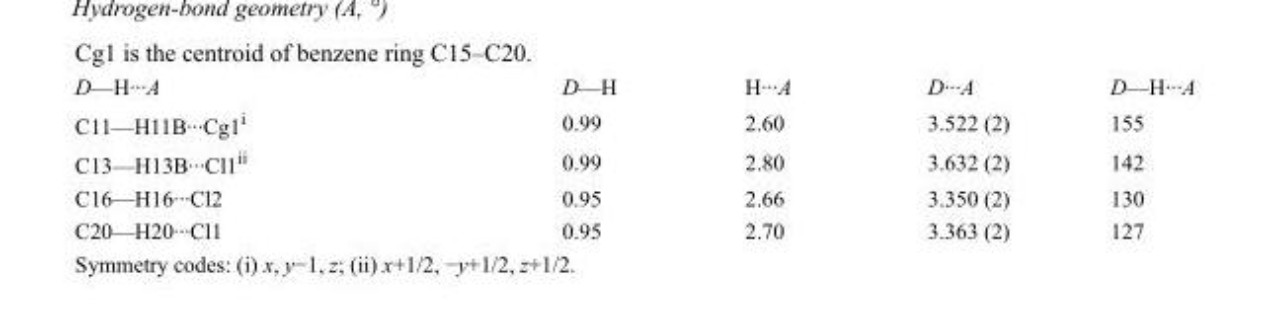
<table><tbody><tr><td>D—H···A</td><td>D—H</td><td>H···A</td><td>D···A</td><td>D—H···A</td></tr><tr><td>C11—H11B···Cg1<sup>i</sup></td><td>0.99</td><td>2.60</td><td>3.522 (2)</td><td>155</td></tr><tr><td>C13—H13B···Cl1<sup>ii</sup></td><td>0.99</td><td>2.80</td><td>3.632 (2)</td><td>142</td></tr><tr><td>C16—H16···Cl2</td><td>0.95</td><td>2.66</td><td>3.350 (2)</td><td>130</td></tr><tr><td>C20—H20···Cl1</td><td>0.95</td><td>2.70</td><td>3.363 (2)</td><td>127</td></tr></tbody></table>